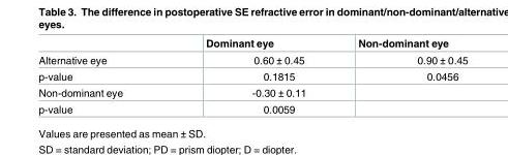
<table><thead><tr><td></td><td>Dominant eye</td><td>Non-dominant eye</td></tr></thead><tbody><tr><td>Alternative eye</td><td>0.60 ± 0.45</td><td>0.90 ± 0.45</td></tr><tr><td>p-value</td><td>0.1815</td><td>0.0456</td></tr><tr><td>Non-dominant eye</td><td>-0.30 ± 0.11</td><td></td></tr><tr><td>p-value</td><td>0.0059</td><td></td></tr></tbody></table>